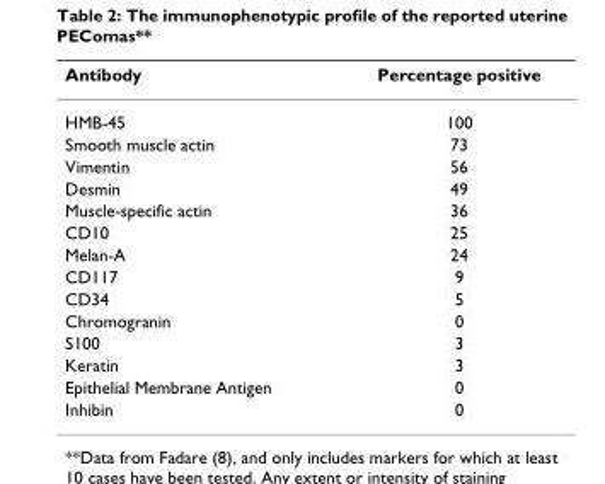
<table><thead><tr><td>Antibody</td><td>Percentage positive</td></tr></thead><tbody><tr><td>HMB-45</td><td>100</td></tr><tr><td>Smooth muscle actin</td><td>73</td></tr><tr><td>Vimentin</td><td>56</td></tr><tr><td>Desmin</td><td>49</td></tr><tr><td>Muscle-specific actin</td><td>36</td></tr><tr><td>CD10</td><td>25</td></tr><tr><td>Melan-A</td><td>24</td></tr><tr><td>CD117</td><td>9</td></tr><tr><td>CD34</td><td>5</td></tr><tr><td>Chromogranin</td><td>0</td></tr><tr><td>S100</td><td>3</td></tr><tr><td>Keratin</td><td>3</td></tr><tr><td>Epithelial Membrane Antigen</td><td>0</td></tr><tr><td>Inhibin</td><td>0</td></tr></tbody></table>